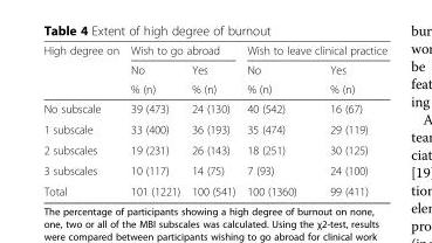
<table><thead><tr><td rowspan="3">High degree on</td><td colspan="2">Wish to go abroad</td><td colspan="2">Wish to leave clinical practice</td></tr><tr><td rowspan="2">No % (n)</td><td rowspan="2">Yes % (n)</td><td rowspan="2">No % (n)</td><td rowspan="2">Yes % (n)</td></tr><tr></tr></thead><tbody><tr><td>No subscale</td><td>39 (473)</td><td>24 (130)</td><td>40 (542)</td><td>16 (67)</td></tr><tr><td>1 subscale</td><td>33 (400)</td><td>36 (193)</td><td>35 (474)</td><td>29 (119)</td></tr><tr><td>2 subscales</td><td>19 (231)</td><td>26 (143)</td><td>18 (251)</td><td>30 (125)</td></tr><tr><td>3 subscales</td><td>10 (117)</td><td>14 (75)</td><td>7 (93)</td><td>24 (100)</td></tr><tr><td>Total</td><td>101 (1221)</td><td>100 (541)</td><td>100 (1360)</td><td>99 (411)</td></tr></tbody></table>